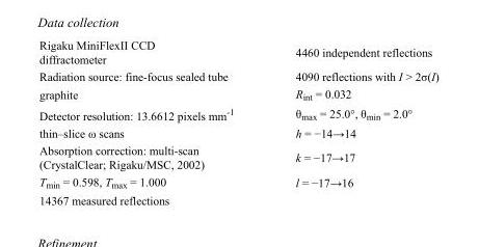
<table><tbody><tr><td>Rigaku MiniFlexII CCD diffractometer</td><td>4460 independent reflections</td></tr><tr><td>Radiation source: fine-focus sealed tube</td><td>4090 reflections with I &gt; 2σ(I)</td></tr><tr><td>graphite</td><td>R<sub>int</sub> = 0.032</td></tr><tr><td>Detector resolution: 13.6612 pixels mm<sup>-1</sup></td><td>θ<sub>max</sub> = 25.0°, θ<sub>min</sub> = 2.0°</td></tr><tr><td>thin–slice ω scans</td><td>h = −14→14</td></tr><tr><td>Absorption correction: multi-scan (CrystalClear; Rigaku/MSC, 2002)</td><td>k = −17→17</td></tr><tr><td>T<sub>min</sub> = 0.598, T<sub>max</sub> = 1.000</td><td>l = −17→16</td></tr><tr><td>14367 measured reflections</td><td></td></tr></tbody></table>